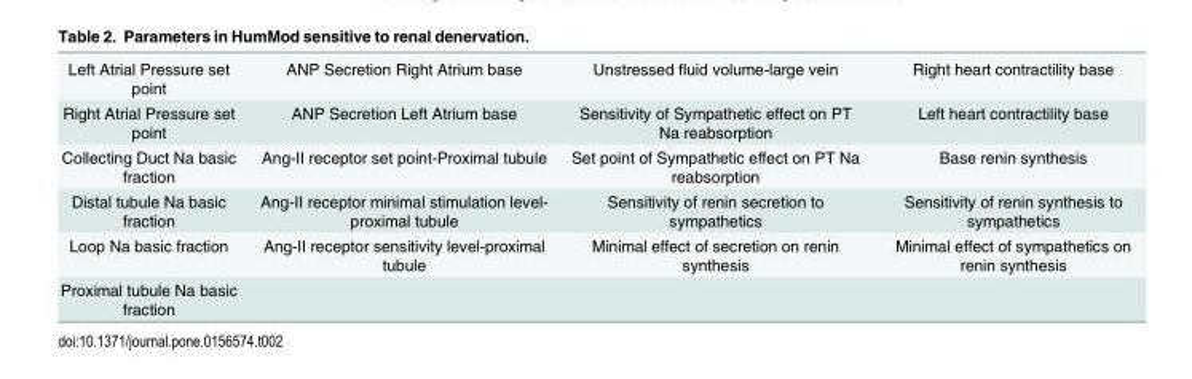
<table><tbody><tr><td>Left Atrial Pressure set point</td><td>ANP Secretion Right Atrium base</td><td>Unstressed fluid volume-large vein</td><td>Right heart contractility base</td></tr><tr><td>Right Atrial Pressure set point</td><td>ANP Secretion Left Atrium base</td><td>Sensitivity of Sympathetic effect on PT Na reabsorption</td><td>Left heart contractility base</td></tr><tr><td>Collecting Duct Na basic fraction</td><td>Ang-II receptor set point-Proximal tubule</td><td>Set point of Sympathetic effect on PT Na reabsorption</td><td>Base renin synthesis</td></tr><tr><td>Distal tubule Na basic fraction</td><td>Ang-II receptor minimal stimulation level- proximal tubule</td><td>Sensitivity of renin secretion to sympathetics</td><td>Sensitivity of renin synthesis to sympathetics</td></tr><tr><td>Loop Na basic fraction</td><td>Ang-II receptor sensitivity level-proximal tubule</td><td>Minimal effect of secretion on renin synthesis</td><td>Minimal effect of sympathetics on renin synthesis</td></tr><tr><td>Proximal tubule Na basic fraction</td><td></td><td></td><td></td></tr></tbody></table>